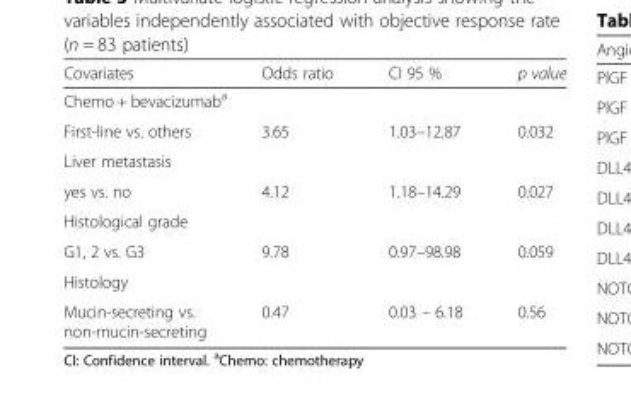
<table><thead><tr><td>Covariates</td><td>Odds ratio</td><td>CI 95 %</td><td>p value</td></tr></thead><tbody><tr><td colspan="4">Chemo + bevacizumab<sup>a</sup></td></tr><tr><td>First-line vs. others</td><td>3.65</td><td>1.03–12.87</td><td>0.032</td></tr><tr><td colspan="4">Liver metastasis</td></tr><tr><td>yes vs. no</td><td>4.12</td><td>1.18–14.29</td><td>0.027</td></tr><tr><td colspan="4">Histological grade</td></tr><tr><td>G1, 2 vs. G3</td><td>9.78</td><td>0.97–98.98</td><td>0.059</td></tr><tr><td colspan="4">Histology</td></tr><tr><td>Mucin-secreting vs. non-mucin-secreting</td><td>0.47</td><td>0.03 – 6.18</td><td>0.56</td></tr></tbody></table>